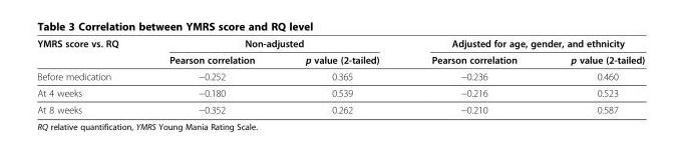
<table><thead><tr><td rowspan="2">YMRS score vs. RQ</td><td colspan="2">Non-adjusted</td><td colspan="2">Adjusted for age, gender, and ethnicity</td></tr><tr><td>Pearson correlation</td><td>p value (2-tailed)</td><td>Pearson correlation</td><td>p value (2-tailed)</td></tr></thead><tbody><tr><td>Before medication</td><td>−0.252</td><td>0.365</td><td>−0.236</td><td>0.460</td></tr><tr><td>At 4 weeks</td><td>−0.180</td><td>0.539</td><td>−0.216</td><td>0.523</td></tr><tr><td>At 8 weeks</td><td>−0.352</td><td>0.262</td><td>−0.210</td><td>0.587</td></tr></tbody></table>